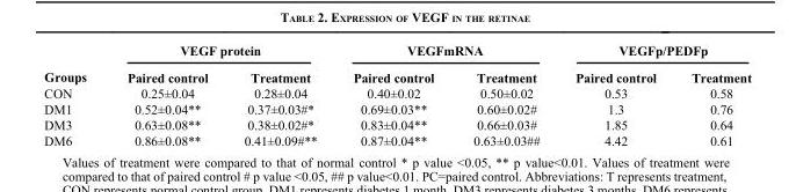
<table><thead><tr><td rowspan="2">Groups</td><td colspan="2">VEGF protein</td><td colspan="2">VEGFmRNA</td><td colspan="2">VEGFp/PEDFp</td></tr><tr><td>Paired control</td><td>Treatment</td><td>Paired control</td><td>Treatment</td><td>Paired control</td><td>Treatment</td></tr></thead><tbody><tr><td>CON</td><td>0.25±0.04</td><td>0.28±0.04</td><td>0.40±0.02</td><td>0.50±0.02</td><td>0.53</td><td>0.58</td></tr><tr><td>DM1</td><td>0.52±0.04**</td><td>0.37±0.03#*</td><td>0.69±0.03**</td><td>0.60±0.02#</td><td>1.3</td><td>0.76</td></tr><tr><td>DM3</td><td>0.63±0.08**</td><td>0.38±0.02#*</td><td>0.83±0.04**</td><td>0.66±0.03#</td><td>1.85</td><td>0.64</td></tr><tr><td>DM6</td><td>0.86±0.08**</td><td>0.41±0.09#**</td><td>0.87±0.04**</td><td>0.63±0.03##</td><td>4.42</td><td>0.61</td></tr></tbody></table>